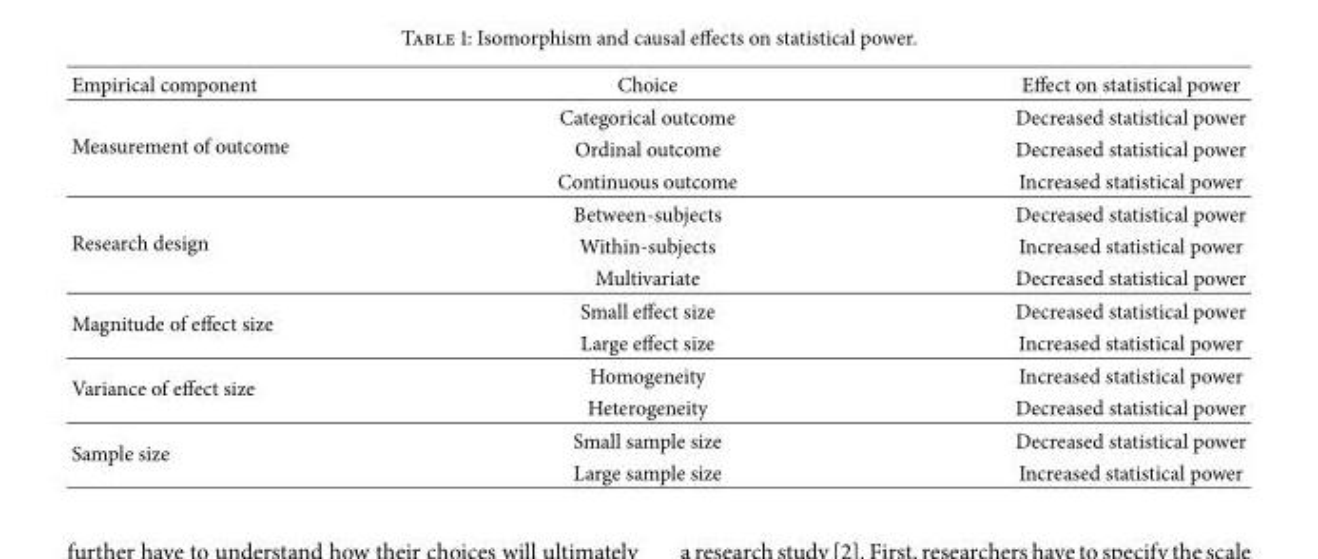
<table><thead><tr><td>Empirical component</td><td>Choice</td><td>Effect on statistical power</td></tr></thead><tbody><tr><td rowspan="3">Measurement of outcome</td><td>Categorical outcome</td><td>Decreased statistical power</td></tr><tr><td>Ordinal outcome</td><td>Decreased statistical power</td></tr><tr><td>Continuous outcome</td><td>Increased statistical power</td></tr><tr><td rowspan="3">Research design</td><td>Between-subjects</td><td>Decreased statistical power</td></tr><tr><td>Within-subjects</td><td>Increased statistical power</td></tr><tr><td>Multivariate</td><td>Decreased statistical power</td></tr><tr><td rowspan="2">Magnitude of effect size</td><td>Small effect size</td><td>Decreased statistical power</td></tr><tr><td>Large effect size</td><td>Increased statistical power</td></tr><tr><td rowspan="2">Variance of effect size</td><td>Homogeneity</td><td>Increased statistical power</td></tr><tr><td>Heterogeneity</td><td>Decreased statistical power</td></tr><tr><td rowspan="2">Sample size</td><td>Small sample size</td><td>Decreased statistical power</td></tr><tr><td>Large sample size</td><td>Increased statistical power</td></tr></tbody></table>